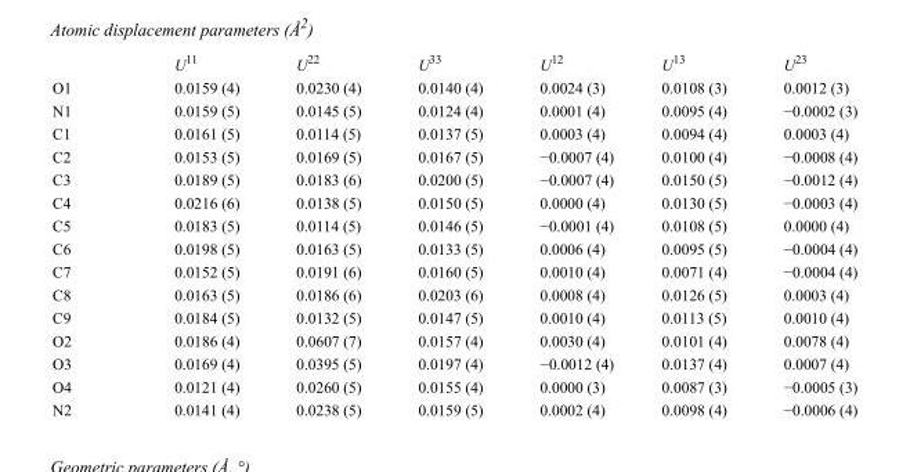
<table><thead><tr><td></td><td>U<sup>11</sup></td><td>U<sup>22</sup></td><td>U<sup>33</sup></td><td>U<sup>12</sup></td><td>U<sup>13</sup></td><td>U<sup>23</sup></td></tr></thead><tbody><tr><td>O1</td><td>0.0159 (4)</td><td>0.0230 (4)</td><td>0.0140 (4)</td><td>0.0024 (3)</td><td>0.0108 (3)</td><td>0.0012 (3)</td></tr><tr><td>N1</td><td>0.0159 (5)</td><td>0.0145 (5)</td><td>0.0124 (4)</td><td>0.0001 (4)</td><td>0.0095 (4)</td><td>−0.0002 (3)</td></tr><tr><td>C1</td><td>0.0161 (5)</td><td>0.0114 (5)</td><td>0.0137 (5)</td><td>0.0003 (4)</td><td>0.0094 (4)</td><td>0.0003 (4)</td></tr><tr><td>C2</td><td>0.0153 (5)</td><td>0.0169 (5)</td><td>0.0167 (5)</td><td>−0.0007 (4)</td><td>0.0100 (4)</td><td>−0.0008 (4)</td></tr><tr><td>C3</td><td>0.0189 (5)</td><td>0.0183 (6)</td><td>0.0200 (5)</td><td>−0.0007 (4)</td><td>0.0150 (5)</td><td>−0.0012 (4)</td></tr><tr><td>C4</td><td>0.0216 (6)</td><td>0.0138 (5)</td><td>0.0150 (5)</td><td>0.0000 (4)</td><td>0.0130 (5)</td><td>−0.0003 (4)</td></tr><tr><td>C5</td><td>0.0183 (5)</td><td>0.0114 (5)</td><td>0.0146 (5)</td><td>−0.0001 (4)</td><td>0.0108 (5)</td><td>0.0000 (4)</td></tr><tr><td>C6</td><td>0.0198 (5)</td><td>0.0163 (5)</td><td>0.0133 (5)</td><td>0.0006 (4)</td><td>0.0095 (5)</td><td>−0.0004 (4)</td></tr><tr><td>C7</td><td>0.0152 (5)</td><td>0.0191 (6)</td><td>0.0160 (5)</td><td>0.0010 (4)</td><td>0.0071 (4)</td><td>−0.0004 (4)</td></tr><tr><td>C8</td><td>0.0163 (5)</td><td>0.0186 (6)</td><td>0.0203 (6)</td><td>0.0008 (4)</td><td>0.0126 (5)</td><td>0.0003 (4)</td></tr><tr><td>C9</td><td>0.0184 (5)</td><td>0.0132 (5)</td><td>0.0147 (5)</td><td>0.0010 (4)</td><td>0.0113 (5)</td><td>0.0010 (4)</td></tr><tr><td>O2</td><td>0.0186 (4)</td><td>0.0607 (7)</td><td>0.0157 (4)</td><td>0.0030 (4)</td><td>0.0101 (4)</td><td>0.0078 (4)</td></tr><tr><td>O3</td><td>0.0169 (4)</td><td>0.0395 (5)</td><td>0.0197 (4)</td><td>−0.0012 (4)</td><td>0.0137 (4)</td><td>0.0007 (4)</td></tr><tr><td>O4</td><td>0.0121 (4)</td><td>0.0260 (5)</td><td>0.0155 (4)</td><td>0.0000 (3)</td><td>0.0087 (3)</td><td>−0.0005 (3)</td></tr><tr><td>N2</td><td>0.0141 (4)</td><td>0.0238 (5)</td><td>0.0159 (5)</td><td>0.0002 (4)</td><td>0.0098 (4)</td><td>−0.0006 (4)</td></tr></tbody></table>